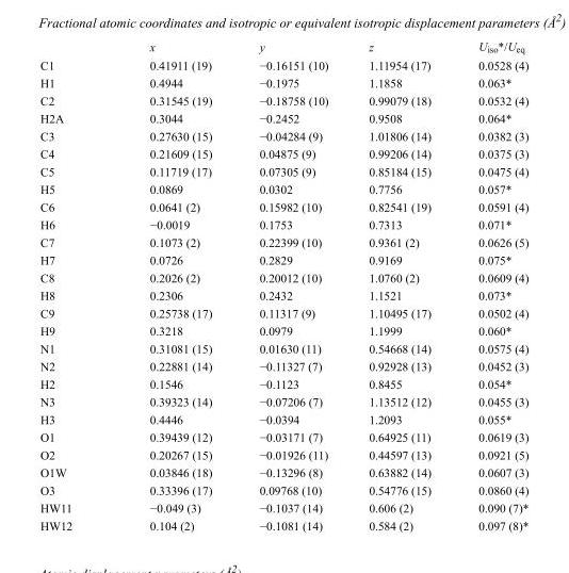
<table><thead><tr><td></td><td>x</td><td>y</td><td>z</td><td>U<sub>iso</sub>*/U<sub>eq</sub></td></tr></thead><tbody><tr><td>C1</td><td>0.41911 (19)</td><td>−0.16151 (10)</td><td>1.11954 (17)</td><td>0.0528 (4)</td></tr><tr><td>H1</td><td>0.4944</td><td>−0.1975</td><td>1.1858</td><td>0.063*</td></tr><tr><td>C2</td><td>0.31545 (19)</td><td>−0.18758 (10)</td><td>0.99079 (18)</td><td>0.0532 (4)</td></tr><tr><td>H2A</td><td>0.3044</td><td>−0.2452</td><td>0.9508</td><td>0.064*</td></tr><tr><td>C3</td><td>0.27630 (15)</td><td>−0.04284 (9)</td><td>1.01806 (14)</td><td>0.0382 (3)</td></tr><tr><td>C4</td><td>0.21609 (15)</td><td>0.04875 (9)</td><td>0.99206 (14)</td><td>0.0375 (3)</td></tr><tr><td>C5</td><td>0.11719 (17)</td><td>0.07305 (9)</td><td>0.85184 (15)</td><td>0.0475 (4)</td></tr><tr><td>H5</td><td>0.0869</td><td>0.0302</td><td>0.7756</td><td>0.057*</td></tr><tr><td>C6</td><td>0.0641 (2)</td><td>0.15982 (10)</td><td>0.82541 (19)</td><td>0.0591 (4)</td></tr><tr><td>H6</td><td>−0.0019</td><td>0.1753</td><td>0.7313</td><td>0.071*</td></tr><tr><td>C7</td><td>0.1073 (2)</td><td>0.22399 (10)</td><td>0.9361 (2)</td><td>0.0626 (5)</td></tr><tr><td>H7</td><td>0.0726</td><td>0.2829</td><td>0.9169</td><td>0.075*</td></tr><tr><td>C8</td><td>0.2026 (2)</td><td>0.20012 (10)</td><td>1.0760 (2)</td><td>0.0609 (4)</td></tr><tr><td>H8</td><td>0.2306</td><td>0.2432</td><td>1.1521</td><td>0.073*</td></tr><tr><td>C9</td><td>0.25738 (17)</td><td>0.11317 (9)</td><td>1.10495 (17)</td><td>0.0502 (4)</td></tr><tr><td>H9</td><td>0.3218</td><td>0.0979</td><td>1.1999</td><td>0.060*</td></tr><tr><td>N1</td><td>0.31081 (15)</td><td>0.01630 (11)</td><td>0.54668 (14)</td><td>0.0575 (4)</td></tr><tr><td>N2</td><td>0.22881 (14)</td><td>−0.11327 (7)</td><td>0.92928 (13)</td><td>0.0452 (3)</td></tr><tr><td>H2</td><td>0.1546</td><td>−0.1123</td><td>0.8455</td><td>0.054*</td></tr><tr><td>N3</td><td>0.39323 (14)</td><td>−0.07206 (7)</td><td>1.13512 (12)</td><td>0.0455 (3)</td></tr><tr><td>H3</td><td>0.4446</td><td>−0.0394</td><td>1.2093</td><td>0.055*</td></tr><tr><td>O1</td><td>0.39439 (12)</td><td>−0.03171 (7)</td><td>0.64925 (11)</td><td>0.0619 (3)</td></tr><tr><td>O2</td><td>0.20267 (15)</td><td>−0.01926 (11)</td><td>0.44597 (13)</td><td>0.0921 (5)</td></tr><tr><td>O1W</td><td>0.03846 (18)</td><td>−0.13296 (8)</td><td>0.63882 (14)</td><td>0.0607 (3)</td></tr><tr><td>O3</td><td>0.33396 (17)</td><td>0.09768 (10)</td><td>0.54776 (15)</td><td>0.0860 (4)</td></tr><tr><td>HW11</td><td>−0.049 (3)</td><td>−0.1037 (14)</td><td>0.606 (2)</td><td>0.090 (7)*</td></tr><tr><td>HW12</td><td>0.104 (2)</td><td>−0.1081 (14)</td><td>0.584 (2)</td><td>0.097 (8)*</td></tr></tbody></table>